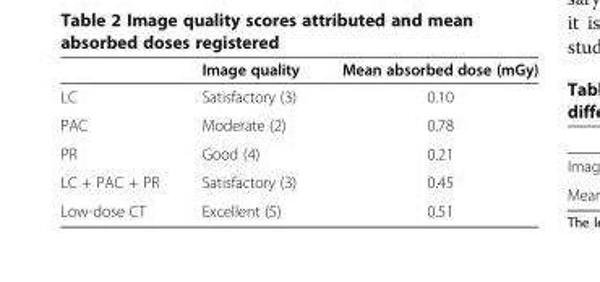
<table><thead><tr><td></td><td>Image quality</td><td>Mean absorbed dose (mGy)</td></tr></thead><tbody><tr><td>LC</td><td>Satisfactory (3)</td><td>0.10</td></tr><tr><td>PAC</td><td>Moderate (2)</td><td>0.78</td></tr><tr><td>PR</td><td>Good (4)</td><td>0.21</td></tr><tr><td>LC + PAC + PR</td><td>Satisfactory (3)</td><td>0.45</td></tr><tr><td>Low-dose CT</td><td>Excellent (5)</td><td>0.51</td></tr></tbody></table>